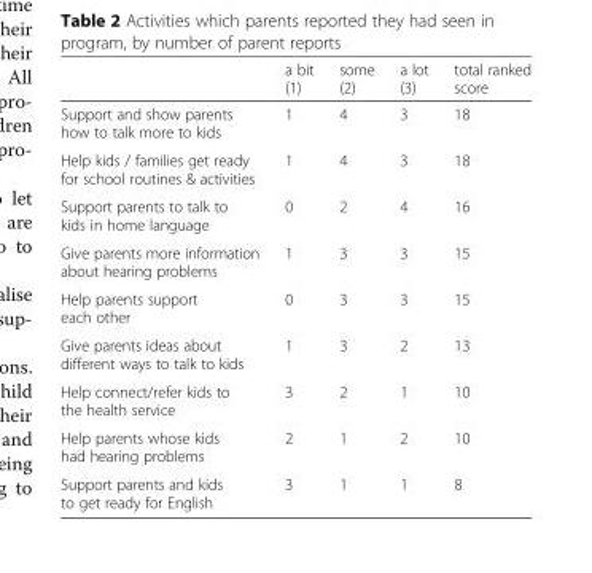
<table><thead><tr><td></td><td>a bit (1)</td><td>some (2)</td><td>a lot (3)</td><td>total ranked score</td></tr></thead><tbody><tr><td>Support and show parents how to talk more to kids</td><td>1</td><td>4</td><td>3</td><td>18</td></tr><tr><td>Help kids / families get ready for school routines &amp; activities</td><td>1</td><td>4</td><td>3</td><td>18</td></tr><tr><td>Support parents to talk to kids in home language</td><td>0</td><td>2</td><td>4</td><td>16</td></tr><tr><td>Give parents more information about hearing problems</td><td>1</td><td>3</td><td>3</td><td>15</td></tr><tr><td>Help parents support each other</td><td>0</td><td>3</td><td>3</td><td>15</td></tr><tr><td>Give parents ideas about different ways to talk to kids</td><td>1</td><td>3</td><td>2</td><td>13</td></tr><tr><td>Help connect/refer kids to the health service</td><td>3</td><td>2</td><td>1</td><td>10</td></tr><tr><td>Help parents whose kids had hearing problems</td><td>2</td><td>1</td><td>2</td><td>10</td></tr><tr><td>Support parents and kids to get ready for English</td><td>3</td><td>1</td><td>1</td><td>8</td></tr></tbody></table>